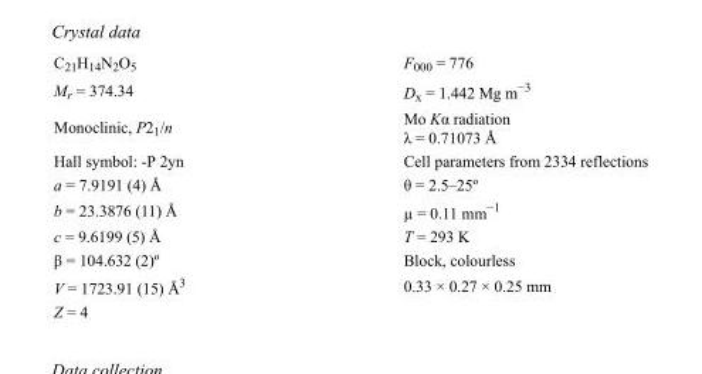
<table><tbody><tr><td>C<sub>21</sub>H<sub>14</sub>N<sub>2</sub>O<sub>5</sub></td><td>F000 = 776</td></tr><tr><td>M<sub>r</sub> = 374.34</td><td>D<sub>x</sub> = 1.442 Mg m<sup>−3</sup></td></tr><tr><td>Monoclinic, P2<sub>1</sub>/n</td><td>Mo Kα radiation λ = 0.71073 Å</td></tr><tr><td>Hall symbol: -P 2yn</td><td>Cell parameters from 2334 reflections</td></tr><tr><td>a = 7.9191 (4) Å</td><td>θ = 2.5–25º</td></tr><tr><td>b = 23.3876 (11) Å</td><td>µ = 0.11 mm<sup>−1</sup></td></tr><tr><td>c = 9.6199 (5) Å</td><td>T = 293 K</td></tr><tr><td>β = 104.632 (2)º</td><td>Block, colourless</td></tr><tr><td>V = 1723.91 (15) Å<sup>3</sup></td><td>0.33 × 0.27 × 0.25 mm</td></tr><tr><td>Z = 4</td><td></td></tr></tbody></table>